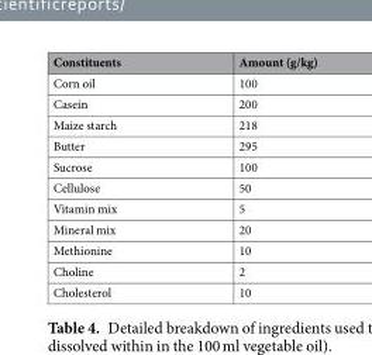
<table><thead><tr><td>Constituents</td><td>Amount (g/kg)</td></tr></thead><tbody><tr><td>Corn oil</td><td>100</td></tr><tr><td>Casein</td><td>200</td></tr><tr><td>Maize starch</td><td>218</td></tr><tr><td>Butter</td><td>295</td></tr><tr><td>Sucrose</td><td>100</td></tr><tr><td>Cellulose</td><td>50</td></tr><tr><td>Vitamin mix</td><td>5</td></tr><tr><td>Mineral mix</td><td>20</td></tr><tr><td>Methionine</td><td>10</td></tr><tr><td>Choline</td><td>2</td></tr><tr><td>Cholesterol</td><td>10</td></tr></tbody></table>